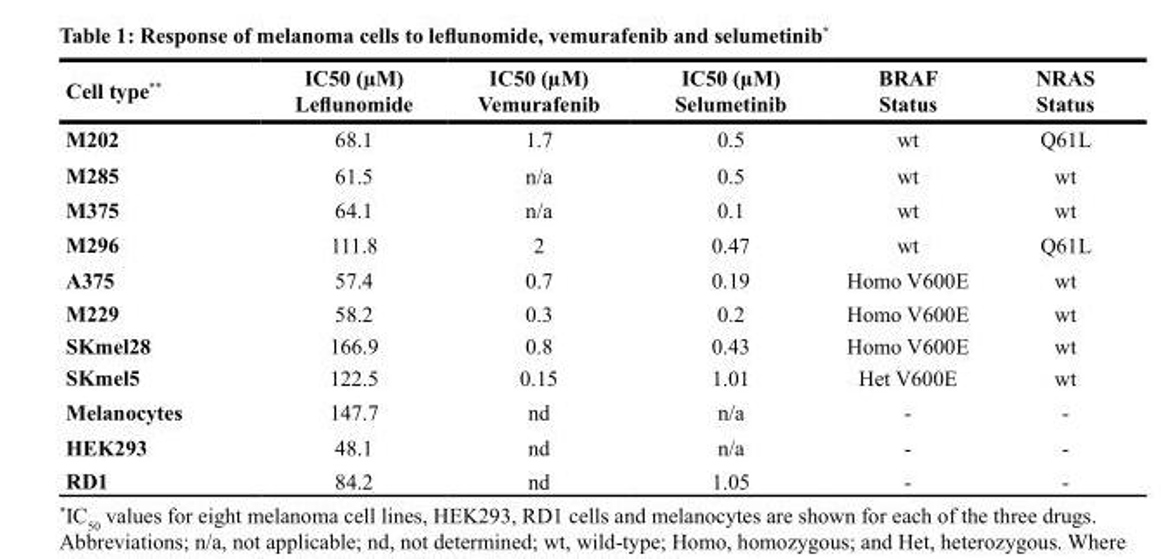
<table><thead><tr><td>Cell type**</td><td>IC50 (µM) Leflunomide</td><td>IC50 (µM) Vemurafenib</td><td>IC50 (µM) Selumetinib</td><td>BRAF Status</td><td>NRAS Status</td></tr></thead><tbody><tr><td>M202</td><td>68.1</td><td>1.7</td><td>0.5</td><td>wt</td><td>Q61L</td></tr><tr><td>M285</td><td>61.5</td><td>n/a</td><td>0.5</td><td>wt</td><td>wt</td></tr><tr><td>M375</td><td>64.1</td><td>n/a</td><td>0.1</td><td>wt</td><td>wt</td></tr><tr><td>M296</td><td>111.8</td><td>2</td><td>0.47</td><td>wt</td><td>Q61L</td></tr><tr><td>A375</td><td>57.4</td><td>0.7</td><td>0.19</td><td>Homo V600E</td><td>wt</td></tr><tr><td>M229</td><td>58.2</td><td>0.3</td><td>0.2</td><td>Homo V600E</td><td>wt</td></tr><tr><td>SKmel28</td><td>166.9</td><td>0.8</td><td>0.43</td><td>Homo V600E</td><td>wt</td></tr><tr><td>SKmel5</td><td>122.5</td><td>0.15</td><td>1.01</td><td>Het V600E</td><td>wt</td></tr><tr><td>Melanocytes</td><td>147.7</td><td>nd</td><td>n/a</td><td>-</td><td>-</td></tr><tr><td>HEK293</td><td>48.1</td><td>nd</td><td>n/a</td><td>-</td><td>-</td></tr><tr><td>RD1</td><td>84.2</td><td>nd</td><td>1.05</td><td>-</td><td>-</td></tr></tbody></table>